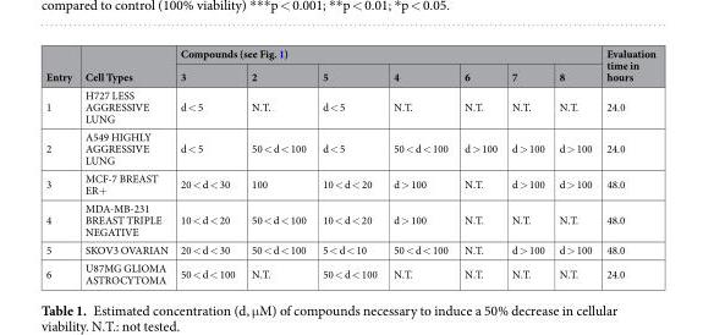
<table><thead><tr><td rowspan="2">Entry</td><td rowspan="2">Cell Types</td><td colspan="7">Compounds (see Fig. 1)</td><td rowspan="2">Evaluation time in hours</td></tr><tr><td>3</td><td>2</td><td>5</td><td>4</td><td>6</td><td>7</td><td>8</td></tr></thead><tbody><tr><td>1</td><td>H727 LESS AGGRESSIVE LUNG</td><td>d &lt; 5</td><td>N.T.</td><td>d &lt; 5</td><td>N.T.</td><td>N.T.</td><td>N.T.</td><td>N.T.</td><td>24.0</td></tr><tr><td>2</td><td>A549 HIGHLY AGGRESSIVE LUNG</td><td>d &lt; 5</td><td>50 &lt; d &lt; 100</td><td>d &lt; 5</td><td>50 &lt; d &lt; 100</td><td>d &gt; 100</td><td>d &gt; 100</td><td>d &gt; 100</td><td>24.0</td></tr><tr><td>3</td><td>MCF-7 BREAST ER+</td><td>20 &lt; d &lt; 30</td><td>100</td><td>10 &lt; d &lt; 20</td><td>d &gt; 100</td><td>N.T.</td><td>d &gt; 100</td><td>d &gt; 100</td><td>48.0</td></tr><tr><td>4</td><td>MDA-MB-231 BREAST TRIPLE NEGATIVE</td><td>10 &lt; d &lt; 20</td><td>50 &lt; d &lt; 100</td><td>10 &lt; d &lt; 20</td><td>d &gt; 100</td><td>N.T.</td><td>N.T.</td><td>N.T.</td><td>48.0</td></tr><tr><td>5</td><td>SKOV3 OVARIAN</td><td>20 &lt; d &lt; 30</td><td>50 &lt; d &lt; 100</td><td>5 &lt; d &lt; 10</td><td>50 &lt; d &lt; 100</td><td>N.T.</td><td>d &gt; 100</td><td>d &gt; 100</td><td>48.0</td></tr><tr><td>6</td><td>U87MG GLIOMA ASTROCYTOMA</td><td>50 &lt; d &lt; 100</td><td>N.T.</td><td>50 &lt; d &lt; 100</td><td>N.T.</td><td>N.T.</td><td>N.T.</td><td>N.T.</td><td>24.0</td></tr></tbody></table>